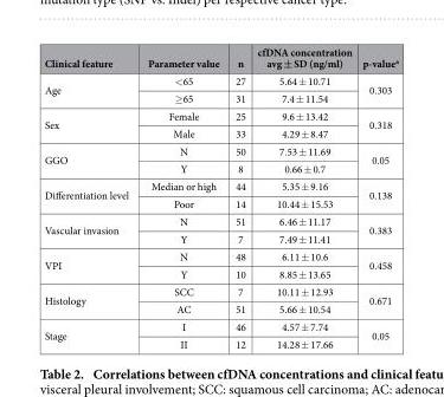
<table><thead><tr><td>Clinical feature</td><td>Parameter value</td><td>n</td><td>cfDNA concentration avg ± SD (ng/ml)</td><td>p-value<sup>a</sup></td></tr></thead><tbody><tr><td rowspan="2">Age</td><td>&lt; 65</td><td>27</td><td>5.64 ± 10.71</td><td rowspan="2">0.303</td></tr><tr><td>≥ 65</td><td>31</td><td>7.4 ± 11.54</td></tr><tr><td rowspan="2">Sex</td><td>Female</td><td>25</td><td>9.6 ± 13.42</td><td rowspan="2">0.318</td></tr><tr><td>Male</td><td>33</td><td>4.29 ± 8.47</td></tr><tr><td rowspan="2">GGO</td><td>N</td><td>50</td><td>7.53 ± 11.69</td><td rowspan="2">0.05</td></tr><tr><td>Y</td><td>8</td><td>0.66 ± 0.7</td></tr><tr><td rowspan="2">Differentiation level</td><td>Median or high</td><td>44</td><td>5.35 ± 9.16</td><td rowspan="2">0.138</td></tr><tr><td>Poor</td><td>14</td><td>10.44 ± 15.53</td></tr><tr><td rowspan="2">Vascular invasion</td><td>N</td><td>51</td><td>6.46 ± 11.17</td><td rowspan="2">0.383</td></tr><tr><td>Y</td><td>7</td><td>7.49 ± 11.41</td></tr><tr><td rowspan="2">VPI</td><td>N</td><td>48</td><td>6.11 ± 10.6</td><td rowspan="2">0.458</td></tr><tr><td>Y</td><td>10</td><td>8.85 ± 13.65</td></tr><tr><td rowspan="2">Histology</td><td>SCC</td><td>7</td><td>10.11 ± 12.93</td><td rowspan="2">0.671</td></tr><tr><td>AC</td><td>51</td><td>5.66 ± 10.54</td></tr><tr><td rowspan="2">Stage</td><td>I</td><td>46</td><td>4.57 ± 7.74</td><td rowspan="2">0.05</td></tr><tr><td>II</td><td>12</td><td>14.28 ± 17.66</td></tr></tbody></table>